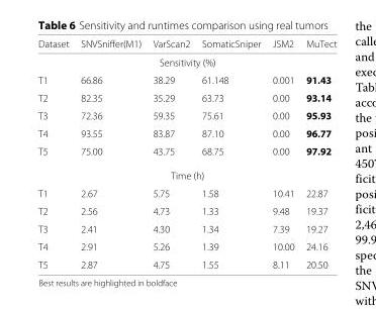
<table><thead><tr><td>Dataset</td><td>SNVSniffer(M1)</td><td>VarScan2</td><td>SomaticSniper</td><td>JSM2</td><td>MuTect</td></tr></thead><tbody><tr><td colspan="6">Sensitivity (%)</td></tr><tr><td>T1</td><td>66.86</td><td>38.29</td><td>61.148</td><td>0.001</td><td>91.43</td></tr><tr><td>T2</td><td>82.35</td><td>35.29</td><td>63.73</td><td>0.00</td><td>93.14</td></tr><tr><td>T3</td><td>72.36</td><td>59.35</td><td>75.61</td><td>0.00</td><td>95.93</td></tr><tr><td>T4</td><td>93.55</td><td>83.87</td><td>87.10</td><td>0.00</td><td>96.77</td></tr><tr><td>T5</td><td>75.00</td><td>43.75</td><td>68.75</td><td>0.00</td><td>97.92</td></tr><tr><td colspan="6">Time (h)</td></tr><tr><td>T1</td><td>2.67</td><td>5.75</td><td>1.58</td><td>10.41</td><td>22.87</td></tr><tr><td>T2</td><td>2.56</td><td>4.73</td><td>1.33</td><td>9.48</td><td>19.37</td></tr><tr><td>T3</td><td>2.41</td><td>4.30</td><td>1.34</td><td>7.39</td><td>19.27</td></tr><tr><td>T4</td><td>2.91</td><td>5.26</td><td>1.39</td><td>10.00</td><td>24.16</td></tr><tr><td>T5</td><td>2.87</td><td>4.75</td><td>1.55</td><td>8.11</td><td>20.50</td></tr></tbody></table>